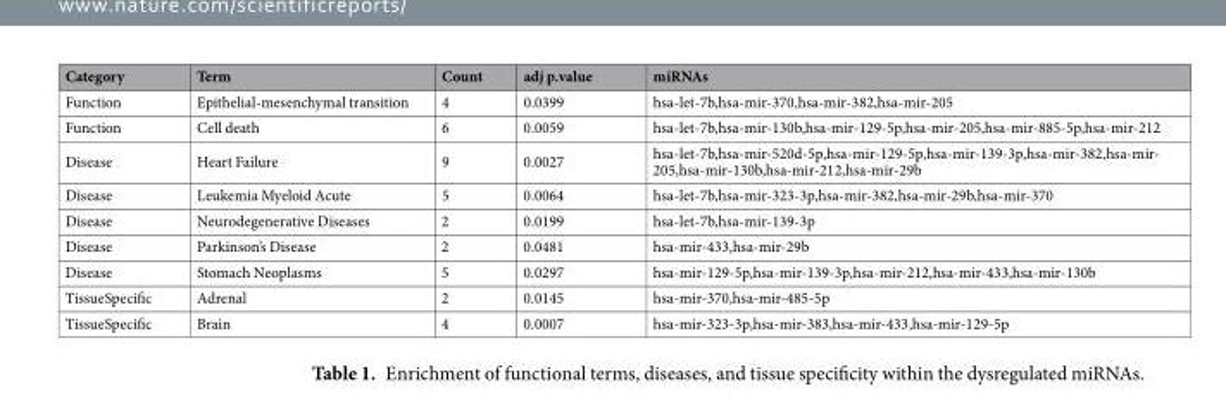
<table><thead><tr><td>Category</td><td>Term</td><td>Count</td><td>adj p.value</td><td>miRNAs</td></tr></thead><tbody><tr><td>Function</td><td>Epithelial-mesenchymal transition</td><td>4</td><td>0.0399</td><td>hsa-let-7b,hsa-mir-370,hsa-mir-382,hsa-mir-205</td></tr><tr><td>Function</td><td>Cell death</td><td>6</td><td>0.0059</td><td>hsa-let-7b,hsa-mir-130b,hsa-mir-129-5p,hsa-mir-205,hsa-mir-885-5p,hsa-mir-212</td></tr><tr><td>Disease</td><td>Heart Failure</td><td>9</td><td>0.0027</td><td>hsa-let-7b,hsa-mir-520d-5p,hsa-mir-129-5p,hsa-mir-139-3p,hsa-mir-382,hsa-mir- 205,hsa-mir-130b,hsa-mir-212,hsa-mir-29b</td></tr><tr><td>Disease</td><td>Leukemia Myeloid Acute</td><td>5</td><td>0.0064</td><td>hsa-let-7b,hsa-mir-323-3p,hsa-mir-382,hsa-mir-29b,hsa-mir-370</td></tr><tr><td>Disease</td><td>Neurodegenerative Diseases</td><td>2</td><td>0.0199</td><td>hsa-let-7b,hsa-mir-139-3p</td></tr><tr><td>Disease</td><td>Parkinson’s Disease</td><td>2</td><td>0.0481</td><td>hsa-mir-433,hsa-mir-29b</td></tr><tr><td>Disease</td><td>Stomach Neoplasms</td><td>5</td><td>0.0297</td><td>hsa-mir-129-5p,hsa-mir-139-3p,hsa-mir-212,hsa-mir-433,hsa-mir-130b</td></tr><tr><td>TissueSpecific</td><td>Adrenal</td><td>2</td><td>0.0145</td><td>hsa-mir-370,hsa-mir-485-5p</td></tr><tr><td>TissueSpecific</td><td>Brain</td><td>4</td><td>0.0007</td><td>hsa-mir-323-3p,hsa-mir-383,hsa-mir-433,hsa-mir-129-5p</td></tr></tbody></table>